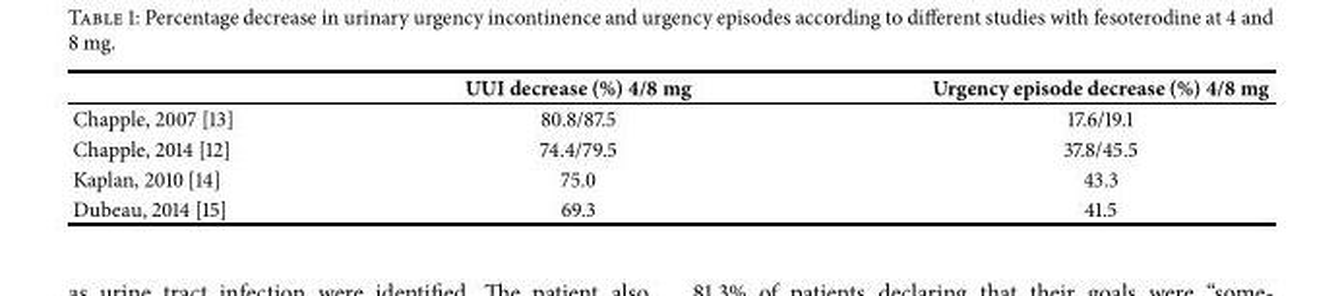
<table><thead><tr><td></td><td>UUI decrease (%) 4/8 mg</td><td>Urgency episode decrease (%) 4/8 mg</td></tr></thead><tbody><tr><td>Chapple, 2007 [13]</td><td>80.8/87.5</td><td>17.6/19.1</td></tr><tr><td>Chapple, 2014 [12]</td><td>74.4/79.5</td><td>37.8/45.5</td></tr><tr><td>Kaplan, 2010 [14]</td><td>75.0</td><td>43.3</td></tr><tr><td>Dubeau, 2014 [15]</td><td>69.3</td><td>41.5</td></tr></tbody></table>